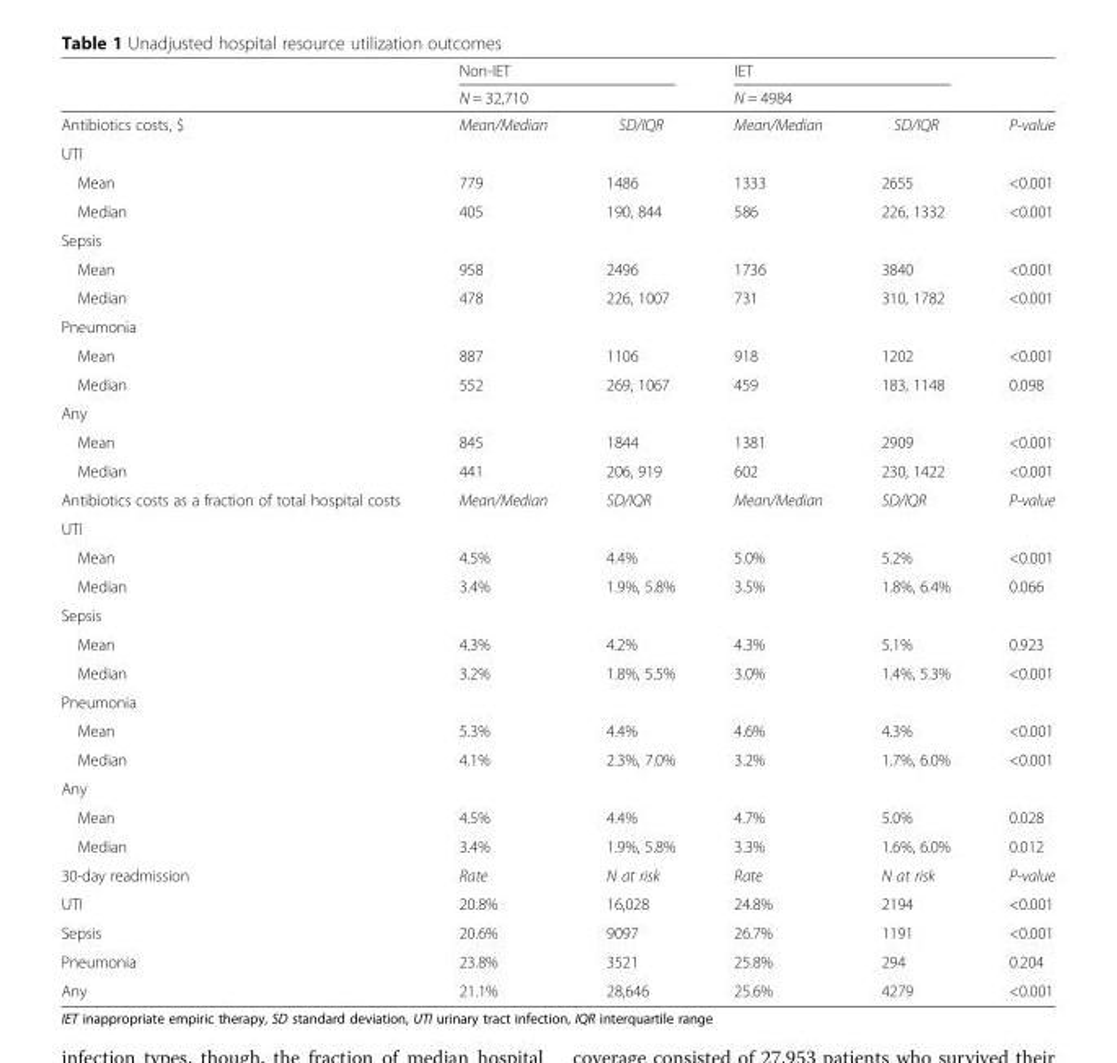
<table><thead><tr><td rowspan="3">Antibiotics costs, $</td><td rowspan="2" colspan="2">Non-IET N = 32,710</td><td rowspan="2" colspan="2">IET N = 4984</td><td rowspan="3">P-value</td></tr><tr></tr><tr><td>Mean/Median</td><td>SD/IQR</td><td>Mean/Median</td><td>SD/IQR</td></tr></thead><tbody><tr><td colspan="6">UTI</td></tr><tr><td>Mean</td><td>779</td><td>1486</td><td>1333</td><td>2655</td><td>&lt;0.001</td></tr><tr><td>Median</td><td>405</td><td>190, 844</td><td>586</td><td>226, 1332</td><td>&lt;0.001</td></tr><tr><td colspan="6">Sepsis</td></tr><tr><td>Mean</td><td>958</td><td>2496</td><td>1736</td><td>3840</td><td>&lt;0.001</td></tr><tr><td>Median</td><td>478</td><td>226, 1007</td><td>731</td><td>310, 1782</td><td>&lt;0.001</td></tr><tr><td colspan="6">Pneumonia</td></tr><tr><td>Mean</td><td>887</td><td>1106</td><td>918</td><td>1202</td><td>&lt;0.001</td></tr><tr><td>Median</td><td>552</td><td>269, 1067</td><td>459</td><td>183, 1148</td><td>0.098</td></tr><tr><td colspan="6">Any</td></tr><tr><td>Mean</td><td>845</td><td>1844</td><td>1381</td><td>2909</td><td>&lt;0.001</td></tr><tr><td>Median</td><td>441</td><td>206, 919</td><td>602</td><td>230, 1422</td><td>&lt;0.001</td></tr><tr><td>Antibiotics costs as a fraction of total hospital costs</td><td>Mean/Median</td><td>SD/IQR</td><td>Mean/Median</td><td>SD/IQR</td><td>P-value</td></tr><tr><td colspan="6">UTI</td></tr><tr><td>Mean</td><td>4.5%</td><td>4.4%</td><td>5.0%</td><td>5.2%</td><td>&lt;0.001</td></tr><tr><td>Median</td><td>3.4%</td><td>1.9%, 5.8%</td><td>3.5%</td><td>1.8%, 6.4%</td><td>0.066</td></tr><tr><td colspan="6">Sepsis</td></tr><tr><td>Mean</td><td>4.3%</td><td>4.2%</td><td>4.3%</td><td>5.1%</td><td>0.923</td></tr><tr><td>Median</td><td>3.2%</td><td>1.8%, 5.5%</td><td>3.0%</td><td>1.4%, 5.3%</td><td>&lt;0.001</td></tr><tr><td colspan="6">Pneumonia</td></tr><tr><td>Mean</td><td>5.3%</td><td>4.4%</td><td>4.6%</td><td>4.3%</td><td>&lt;0.001</td></tr><tr><td>Median</td><td>4.1%</td><td>2.3%, 7.0%</td><td>3.2%</td><td>1.7%, 6.0%</td><td>&lt;0.001</td></tr><tr><td colspan="6">Any</td></tr><tr><td>Mean</td><td>4.5%</td><td>4.4%</td><td>4.7%</td><td>5.0%</td><td>0.028</td></tr><tr><td>Median</td><td>3.4%</td><td>1.9%, 5.8%</td><td>3.3%</td><td>1.6%, 6.0%</td><td>0.012</td></tr><tr><td>30-day readmission</td><td>Rate</td><td>N at risk</td><td>Rate</td><td>N at risk</td><td>P-value</td></tr><tr><td>UTI</td><td>20.8%</td><td>16,028</td><td>24.8%</td><td>2194</td><td>&lt;0.001</td></tr><tr><td>Sepsis</td><td>20.6%</td><td>9097</td><td>26.7%</td><td>1191</td><td>&lt;0.001</td></tr><tr><td>Pneumonia</td><td>23.8%</td><td>3521</td><td>25.8%</td><td>294</td><td>0.204</td></tr><tr><td>Any</td><td>21.1%</td><td>28,646</td><td>25.6%</td><td>4279</td><td>&lt;0.001</td></tr></tbody></table>